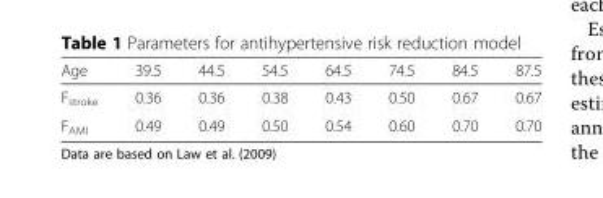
<table><thead><tr><td>Age</td><td>39.5</td><td>44.5</td><td>54.5</td><td>64.5</td><td>74.5</td><td>84.5</td><td>87.5</td></tr></thead><tbody><tr><td>F<sub>stroke</sub></td><td>0.36</td><td>0.36</td><td>0.38</td><td>0.43</td><td>0.50</td><td>0.67</td><td>0.67</td></tr><tr><td>F<sub>AMI</sub></td><td>0.49</td><td>0.49</td><td>0.50</td><td>0.54</td><td>0.60</td><td>0.70</td><td>0.70</td></tr></tbody></table>